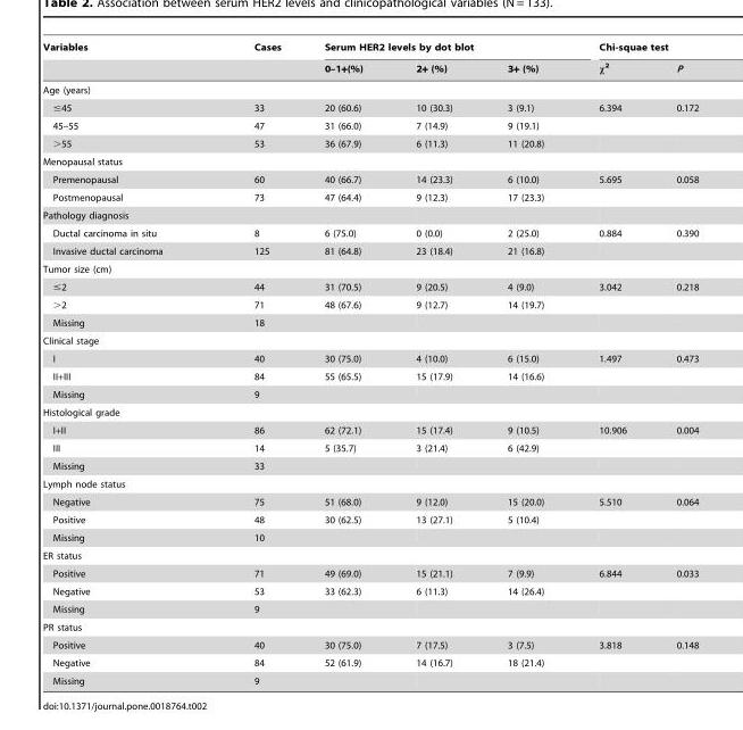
<table><thead><tr><td rowspan="2">Variables</td><td rowspan="2">Cases</td><td colspan="3">Serum HER2 levels by dot blot</td><td colspan="2">Chi-squae test</td></tr><tr><td>0–1+(%)</td><td>2+ (%)</td><td>3+ (%)</td><td>χ<sup>2</sup></td><td>P</td></tr></thead><tbody><tr><td colspan="7">Age (years)</td></tr><tr><td>≤45</td><td>33</td><td>20 (60.6)</td><td>10 (30.3)</td><td>3 (9.1)</td><td>6.394</td><td>0.172</td></tr><tr><td>45–55</td><td>47</td><td>31 (66.0)</td><td>7 (14.9)</td><td>9 (19.1)</td><td></td><td></td></tr><tr><td>&gt;55</td><td>53</td><td>36 (67.9)</td><td>6 (11.3)</td><td>11 (20.8)</td><td></td><td></td></tr><tr><td colspan="7">Menopausal status</td></tr><tr><td>Premenopausal</td><td>60</td><td>40 (66.7)</td><td>14 (23.3)</td><td>6 (10.0)</td><td>5.695</td><td>0.058</td></tr><tr><td>Postmenopausal</td><td>73</td><td>47 (64.4)</td><td>9 (12.3)</td><td>17 (23.3)</td><td></td><td></td></tr><tr><td colspan="7">Pathology diagnosis</td></tr><tr><td>Ductal carcinoma in situ</td><td>8</td><td>6 (75.0)</td><td>0 (0.0)</td><td>2 (25.0)</td><td>0.884</td><td>0.390</td></tr><tr><td>Invasive ductal carcinoma</td><td>125</td><td>81 (64.8)</td><td>23 (18.4)</td><td>21 (16.8)</td><td></td><td></td></tr><tr><td colspan="7">Tumor size (cm)</td></tr><tr><td>≤2</td><td>44</td><td>31 (70.5)</td><td>9 (20.5)</td><td>4 (9.0)</td><td>3.042</td><td>0.218</td></tr><tr><td>&gt;2</td><td>71</td><td>48 (67.6)</td><td>9 (12.7)</td><td>14 (19.7)</td><td></td><td></td></tr><tr><td>Missing</td><td>18</td><td></td><td></td><td></td><td></td><td></td></tr><tr><td colspan="7">Clinical stage</td></tr><tr><td>I</td><td>40</td><td>30 (75.0)</td><td>4 (10.0)</td><td>6 (15.0)</td><td>1.497</td><td>0.473</td></tr><tr><td>II+III</td><td>84</td><td>55 (65.5)</td><td>15 (17.9)</td><td>14 (16.6)</td><td></td><td></td></tr><tr><td>Missing</td><td>9</td><td></td><td></td><td></td><td></td><td></td></tr><tr><td colspan="7">Histological grade</td></tr><tr><td>I+II</td><td>86</td><td>62 (72.1)</td><td>15 (17.4)</td><td>9 (10.5)</td><td>10.906</td><td>0.004</td></tr><tr><td>III</td><td>14</td><td>5 (35.7)</td><td>3 (21.4)</td><td>6 (42.9)</td><td></td><td></td></tr><tr><td>Missing</td><td>33</td><td></td><td></td><td></td><td></td><td></td></tr><tr><td colspan="7">Lymph node status</td></tr><tr><td>Negative</td><td>75</td><td>51 (68.0)</td><td>9 (12.0)</td><td>15 (20.0)</td><td>5.510</td><td>0.064</td></tr><tr><td>Positive</td><td>48</td><td>30 (62.5)</td><td>13 (27.1)</td><td>5 (10.4)</td><td></td><td></td></tr><tr><td>Missing</td><td>10</td><td></td><td></td><td></td><td></td><td></td></tr><tr><td colspan="7">ER status</td></tr><tr><td>Positive</td><td>71</td><td>49 (69.0)</td><td>15 (21.1)</td><td>7 (9.9)</td><td>6.844</td><td>0.033</td></tr><tr><td>Negative</td><td>53</td><td>33 (62.3)</td><td>6 (11.3)</td><td>14 (26.4)</td><td></td><td></td></tr><tr><td>Missing</td><td>9</td><td></td><td></td><td></td><td></td><td></td></tr><tr><td colspan="7">PR status</td></tr><tr><td>Positive</td><td>40</td><td>30 (75.0)</td><td>7 (17.5)</td><td>3 (7.5)</td><td>3.818</td><td>0.148</td></tr><tr><td>Negative</td><td>84</td><td>52 (61.9)</td><td>14 (16.7)</td><td>18 (21.4)</td><td></td><td></td></tr><tr><td>Missing</td><td>9</td><td></td><td></td><td></td><td></td><td></td></tr></tbody></table>